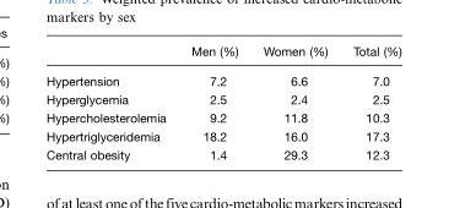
<table><thead><tr><td></td><td>Men (%)</td><td>Women (%)</td><td>Total (%)</td></tr></thead><tbody><tr><td>Hypertension</td><td>7.2</td><td>6.6</td><td>7.0</td></tr><tr><td>Hyperglycemia</td><td>2.5</td><td>2.4</td><td>2.5</td></tr><tr><td>Hypercholesterolemia</td><td>9.2</td><td>11.8</td><td>10.3</td></tr><tr><td>Hypertriglyceridemia</td><td>18.2</td><td>16.0</td><td>17.3</td></tr><tr><td>Central obesity</td><td>1.4</td><td>29.3</td><td>12.3</td></tr></tbody></table>